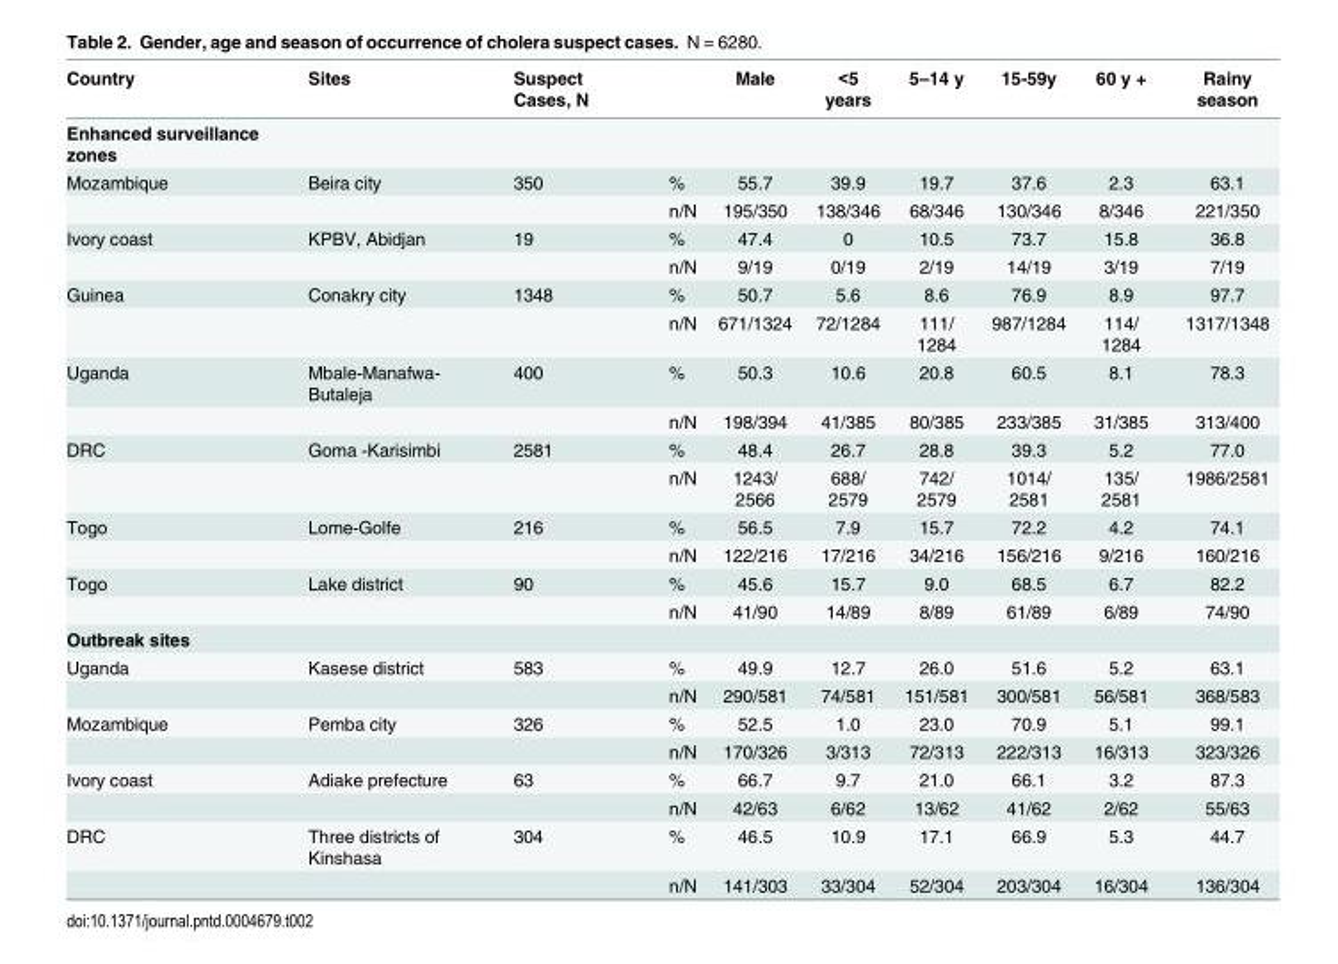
<table><thead><tr><td>Country</td><td>Sites</td><td>Suspect Cases, N</td><td></td><td>Male</td><td>&lt;5 years</td><td>5–14 y</td><td>15-59y</td><td>60 y +</td><td>Rainy season</td></tr></thead><tbody><tr><td colspan="10">Enhanced surveillance zones</td></tr><tr><td rowspan="2">Mozambique</td><td>Beira city</td><td>350</td><td>%</td><td>55.7</td><td>39.9</td><td>19.7</td><td>37.6</td><td>2.3</td><td>63.1</td></tr><tr><td></td><td></td><td>n/N</td><td>195/350</td><td>138/346</td><td>68/346</td><td>130/346</td><td>8/346</td><td>221/350</td></tr><tr><td rowspan="2">Ivory coast</td><td>KPBV, Abidjan</td><td>19</td><td>%</td><td>47.4</td><td>0</td><td>10.5</td><td>73.7</td><td>15.8</td><td>36.8</td></tr><tr><td></td><td></td><td>n/N</td><td>9/19</td><td>0/19</td><td>2/19</td><td>14/19</td><td>3/19</td><td>7/19</td></tr><tr><td rowspan="2">Guinea</td><td>Conakry city</td><td>1348</td><td>%</td><td>50.7</td><td>5.6</td><td>8.6</td><td>76.9</td><td>8.9</td><td>97.7</td></tr><tr><td></td><td></td><td>n/N</td><td>671/1324</td><td>72/1284</td><td>111/ 1284</td><td>987/1284</td><td>114/ 1284</td><td>1317/1348</td></tr><tr><td rowspan="2">Uganda</td><td>Mbale-Manafwa- Butaleja</td><td>400</td><td>%</td><td>50.3</td><td>10.6</td><td>20.8</td><td>60.5</td><td>8.1</td><td>78.3</td></tr><tr><td></td><td></td><td>n/N</td><td>198/394</td><td>41/385</td><td>80/385</td><td>233/385</td><td>31/385</td><td>313/400</td></tr><tr><td rowspan="2">DRC</td><td>Goma -Karisimbi</td><td>2581</td><td>%</td><td>48.4</td><td>26.7</td><td>28.8</td><td>39.3</td><td>5.2</td><td>77.0</td></tr><tr><td></td><td></td><td>n/N</td><td>1243/ 2566</td><td>688/ 2579</td><td>742/ 2579</td><td>1014/ 2581</td><td>135/ 2581</td><td>1986/2581</td></tr><tr><td rowspan="2">Togo</td><td>Lome-Golfe</td><td>216</td><td>%</td><td>56.5</td><td>7.9</td><td>15.7</td><td>72.2</td><td>4.2</td><td>74.1</td></tr><tr><td></td><td></td><td>n/N</td><td>122/216</td><td>17/216</td><td>34/216</td><td>156/216</td><td>9/216</td><td>160/216</td></tr><tr><td rowspan="2">Togo</td><td>Lake district</td><td>90</td><td>%</td><td>45.6</td><td>15.7</td><td>9.0</td><td>68.5</td><td>6.7</td><td>82.2</td></tr><tr><td></td><td></td><td>n/N</td><td>41/90</td><td>14/89</td><td>8/89</td><td>61/89</td><td>6/89</td><td>74/90</td></tr><tr><td colspan="10">Outbreak sites</td></tr><tr><td rowspan="2">Uganda</td><td>Kasese district</td><td>583</td><td>%</td><td>49.9</td><td>12.7</td><td>26.0</td><td>51.6</td><td>5.2</td><td>63.1</td></tr><tr><td></td><td></td><td>n/N</td><td>290/581</td><td>74/581</td><td>151/581</td><td>300/581</td><td>56/581</td><td>368/583</td></tr><tr><td rowspan="2">Mozambique</td><td>Pemba city</td><td>326</td><td>%</td><td>52.5</td><td>1.0</td><td>23.0</td><td>70.9</td><td>5.1</td><td>99.1</td></tr><tr><td></td><td></td><td>n/N</td><td>170/326</td><td>3/313</td><td>72/313</td><td>222/313</td><td>16/313</td><td>323/326</td></tr><tr><td rowspan="2">Ivory coast</td><td>Adiake prefecture</td><td>63</td><td>%</td><td>66.7</td><td>9.7</td><td>21.0</td><td>66.1</td><td>3.2</td><td>87.3</td></tr><tr><td></td><td></td><td>n/N</td><td>42/63</td><td>6/62</td><td>13/62</td><td>41/62</td><td>2/62</td><td>55/63</td></tr><tr><td rowspan="2">DRC</td><td>Three districts of Kinshasa</td><td>304</td><td>%</td><td>46.5</td><td>10.9</td><td>17.1</td><td>66.9</td><td>5.3</td><td>44.7</td></tr><tr><td></td><td></td><td>n/N</td><td>141/303</td><td>33/304</td><td>52/304</td><td>203/304</td><td>16/304</td><td>136/304</td></tr></tbody></table>